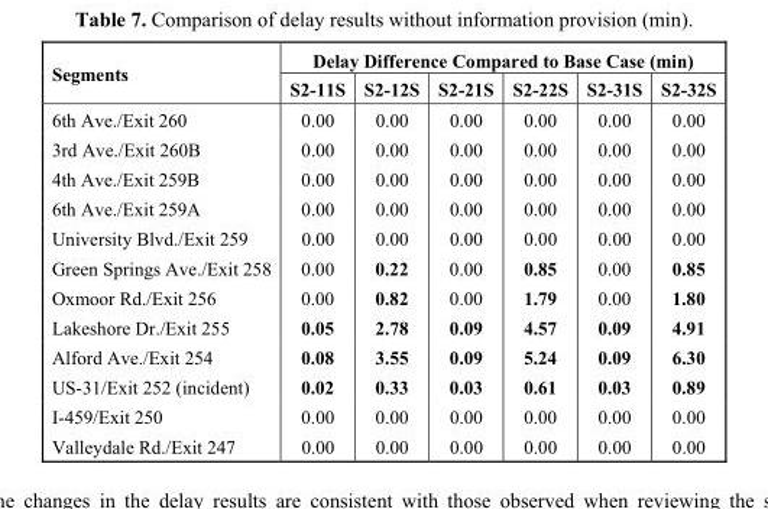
<table><thead><tr><td rowspan="2">Segments</td><td colspan="6">Delay Difference Compared to Base Case (min)</td></tr><tr><td>S2-11S</td><td>S2-12S</td><td>S2-21S</td><td>S2-22S</td><td>S2-31S</td><td>S2-32S</td></tr></thead><tbody><tr><td>6th Ave./Exit 260</td><td>0.00</td><td>0.00</td><td>0.00</td><td>0.00</td><td>0.00</td><td>0.00</td></tr><tr><td>3rd Ave./Exit 260B</td><td>0.00</td><td>0.00</td><td>0.00</td><td>0.00</td><td>0.00</td><td>0.00</td></tr><tr><td>4th Ave./Exit 259B</td><td>0.00</td><td>0.00</td><td>0.00</td><td>0.00</td><td>0.00</td><td>0.00</td></tr><tr><td>6th Ave./Exit 259A</td><td>0.00</td><td>0.00</td><td>0.00</td><td>0.00</td><td>0.00</td><td>0.00</td></tr><tr><td>University Blvd./Exit 259</td><td>0.00</td><td>0.00</td><td>0.00</td><td>0.00</td><td>0.00</td><td>0.00</td></tr><tr><td>Green Springs Ave./Exit 258</td><td>0.00</td><td>0.22</td><td>0.00</td><td>0.85</td><td>0.00</td><td>0.85</td></tr><tr><td>Oxmoor Rd./Exit 256</td><td>0.00</td><td>0.82</td><td>0.00</td><td>1.79</td><td>0.00</td><td>1.80</td></tr><tr><td>Lakeshore Dr./Exit 255</td><td>0.05</td><td>2.78</td><td>0.09</td><td>4.57</td><td>0.09</td><td>4.91</td></tr><tr><td>Alford Ave./Exit 254</td><td>0.08</td><td>3.55</td><td>0.09</td><td>5.24</td><td>0.09</td><td>6.30</td></tr><tr><td>US-31/Exit 252 (incident)</td><td>0.02</td><td>0.33</td><td>0.03</td><td>0.61</td><td>0.03</td><td>0.89</td></tr><tr><td>I-459/Exit 250</td><td>0.00</td><td>0.00</td><td>0.00</td><td>0.00</td><td>0.00</td><td>0.00</td></tr><tr><td>Valleydale Rd./Exit 247</td><td>0.00</td><td>0.00</td><td>0.00</td><td>0.00</td><td>0.00</td><td>0.00</td></tr></tbody></table>